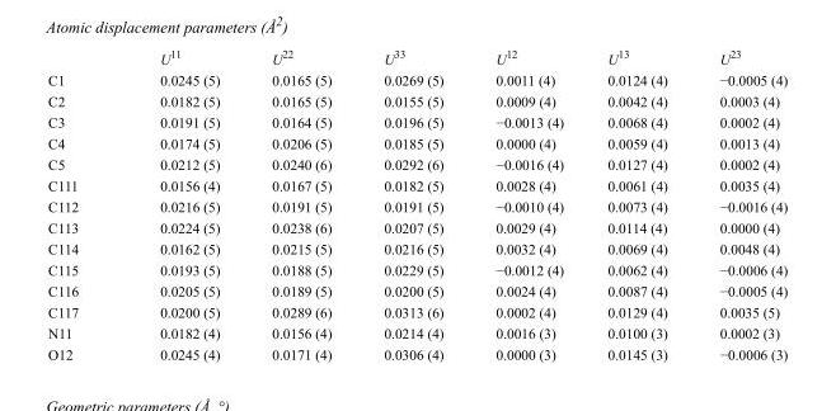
<table><thead><tr><td></td><td>U<sup>11</sup></td><td>U<sup>22</sup></td><td>U<sup>33</sup></td><td>U<sup>12</sup></td><td>U<sup>13</sup></td><td>U<sup>23</sup></td></tr></thead><tbody><tr><td>C1</td><td>0.0245 (5)</td><td>0.0165 (5)</td><td>0.0269 (5)</td><td>0.0011 (4)</td><td>0.0124 (4)</td><td>−0.0005 (4)</td></tr><tr><td>C2</td><td>0.0182 (5)</td><td>0.0165 (5)</td><td>0.0155 (5)</td><td>0.0009 (4)</td><td>0.0042 (4)</td><td>0.0003 (4)</td></tr><tr><td>C3</td><td>0.0191 (5)</td><td>0.0164 (5)</td><td>0.0196 (5)</td><td>−0.0013 (4)</td><td>0.0068 (4)</td><td>0.0002 (4)</td></tr><tr><td>C4</td><td>0.0174 (5)</td><td>0.0206 (5)</td><td>0.0185 (5)</td><td>0.0000 (4)</td><td>0.0059 (4)</td><td>0.0013 (4)</td></tr><tr><td>C5</td><td>0.0212 (5)</td><td>0.0240 (6)</td><td>0.0292 (6)</td><td>−0.0016 (4)</td><td>0.0127 (4)</td><td>0.0002 (4)</td></tr><tr><td>C111</td><td>0.0156 (4)</td><td>0.0167 (5)</td><td>0.0182 (5)</td><td>0.0028 (4)</td><td>0.0061 (4)</td><td>0.0035 (4)</td></tr><tr><td>C112</td><td>0.0216 (5)</td><td>0.0191 (5)</td><td>0.0191 (5)</td><td>−0.0010 (4)</td><td>0.0073 (4)</td><td>−0.0016 (4)</td></tr><tr><td>C113</td><td>0.0224 (5)</td><td>0.0238 (6)</td><td>0.0207 (5)</td><td>0.0029 (4)</td><td>0.0114 (4)</td><td>0.0000 (4)</td></tr><tr><td>C114</td><td>0.0162 (5)</td><td>0.0215 (5)</td><td>0.0216 (5)</td><td>0.0032 (4)</td><td>0.0069 (4)</td><td>0.0048 (4)</td></tr><tr><td>C115</td><td>0.0193 (5)</td><td>0.0188 (5)</td><td>0.0229 (5)</td><td>−0.0012 (4)</td><td>0.0062 (4)</td><td>−0.0006 (4)</td></tr><tr><td>C116</td><td>0.0205 (5)</td><td>0.0189 (5)</td><td>0.0200 (5)</td><td>0.0024 (4)</td><td>0.0087 (4)</td><td>−0.0005 (4)</td></tr><tr><td>C117</td><td>0.0200 (5)</td><td>0.0289 (6)</td><td>0.0313 (6)</td><td>0.0002 (4)</td><td>0.0129 (4)</td><td>0.0035 (5)</td></tr><tr><td>N11</td><td>0.0182 (4)</td><td>0.0156 (4)</td><td>0.0214 (4)</td><td>0.0016 (3)</td><td>0.0100 (3)</td><td>0.0002 (3)</td></tr><tr><td>O12</td><td>0.0245 (4)</td><td>0.0171 (4)</td><td>0.0306 (4)</td><td>0.0000 (3)</td><td>0.0145 (3)</td><td>−0.0006 (3)</td></tr></tbody></table>